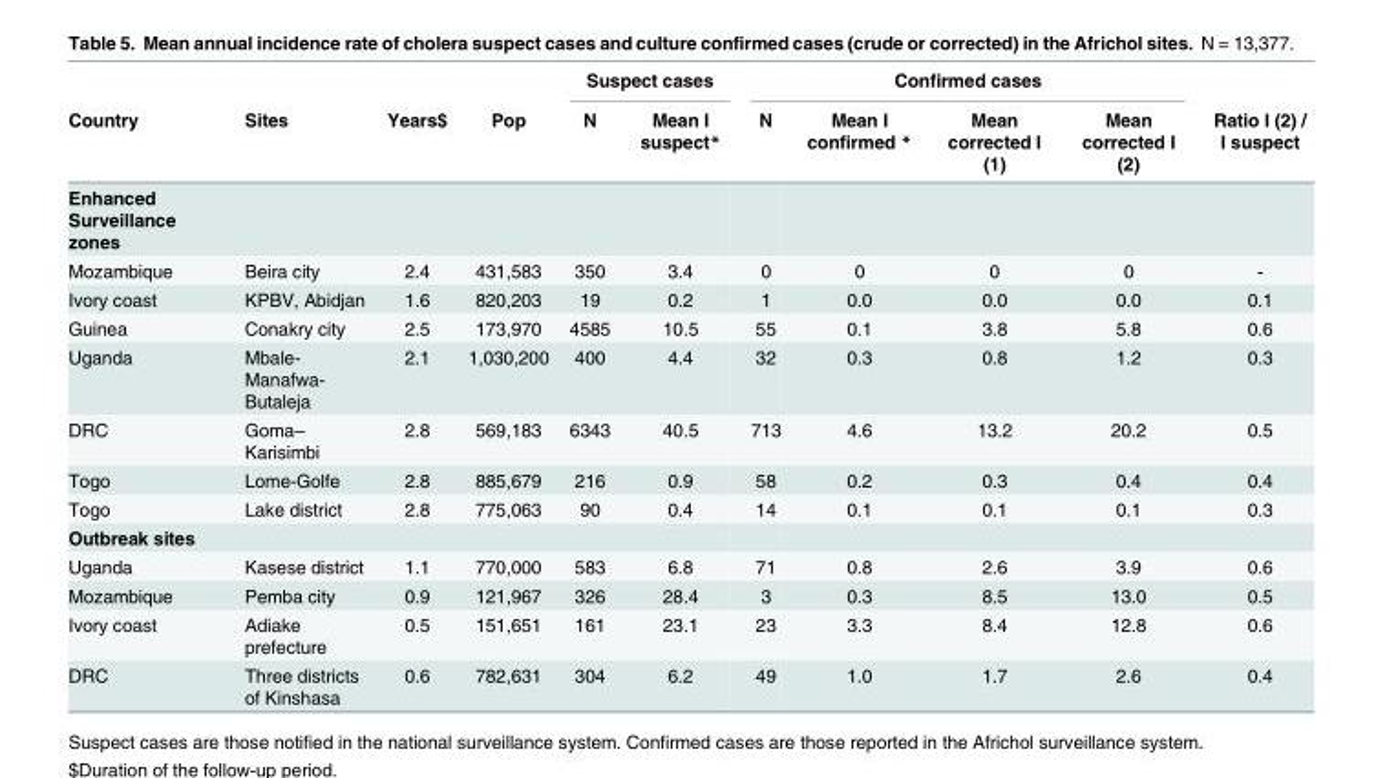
<table><thead><tr><td rowspan="2">Country</td><td rowspan="2">Sites</td><td rowspan="2">Years$</td><td rowspan="2">Pop</td><td colspan="2">Suspect cases</td><td colspan="4">Confirmed cases</td><td rowspan="2">Ratio I (2) / I suspect</td></tr><tr><td>N</td><td>Mean I suspect*</td><td>N</td><td>Mean I confirmed *</td><td>Mean corrected I (1)</td><td>Mean corrected I (2)</td></tr></thead><tbody><tr><td colspan="11">Enhanced Surveillance zones</td></tr><tr><td>Mozambique</td><td>Beira city</td><td>2.4</td><td>431,583</td><td>350</td><td>3.4</td><td>0</td><td>0</td><td>0</td><td>0</td><td>-</td></tr><tr><td>Ivory coast</td><td>KPBV, Abidjan</td><td>1.6</td><td>820,203</td><td>19</td><td>0.2</td><td>1</td><td>0.0</td><td>0.0</td><td>0.0</td><td>0.1</td></tr><tr><td>Guinea</td><td>Conakry city</td><td>2.5</td><td>173,970</td><td>4585</td><td>10.5</td><td>55</td><td>0.1</td><td>3.8</td><td>5.8</td><td>0.6</td></tr><tr><td>Uganda</td><td>Mbale- Manafwa- Butaleja</td><td>2.1</td><td>1,030,200</td><td>400</td><td>4.4</td><td>32</td><td>0.3</td><td>0.8</td><td>1.2</td><td>0.3</td></tr><tr><td>DRC</td><td>Goma– Karisimbi</td><td>2.8</td><td>569,183</td><td>6343</td><td>40.5</td><td>713</td><td>4.6</td><td>13.2</td><td>20.2</td><td>0.5</td></tr><tr><td>Togo</td><td>Lome-Golfe</td><td>2.8</td><td>885,679</td><td>216</td><td>0.9</td><td>58</td><td>0.2</td><td>0.3</td><td>0.4</td><td>0.4</td></tr><tr><td>Togo</td><td>Lake district</td><td>2.8</td><td>775,063</td><td>90</td><td>0.4</td><td>14</td><td>0.1</td><td>0.1</td><td>0.1</td><td>0.3</td></tr><tr><td colspan="11">Outbreak sites</td></tr><tr><td>Uganda</td><td>Kasese district</td><td>1.1</td><td>770,000</td><td>583</td><td>6.8</td><td>71</td><td>0.8</td><td>2.6</td><td>3.9</td><td>0.6</td></tr><tr><td>Mozambique</td><td>Pemba city</td><td>0.9</td><td>121,967</td><td>326</td><td>28.4</td><td>3</td><td>0.3</td><td>8.5</td><td>13.0</td><td>0.5</td></tr><tr><td>Ivory coast</td><td>Adiake prefecture</td><td>0.5</td><td>151,651</td><td>161</td><td>23.1</td><td>23</td><td>3.3</td><td>8.4</td><td>12.8</td><td>0.6</td></tr><tr><td>DRC</td><td>Three districts of Kinshasa</td><td>0.6</td><td>782,631</td><td>304</td><td>6.2</td><td>49</td><td>1.0</td><td>1.7</td><td>2.6</td><td>0.4</td></tr></tbody></table>